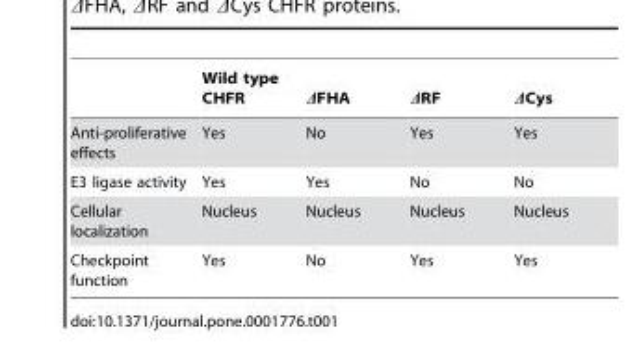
<table><thead><tr><td></td><td>Wild type CHFR</td><td>ΔFHA</td><td>ΔRF</td><td>ΔCys</td></tr></thead><tbody><tr><td>Anti-proliferative effects</td><td>Yes</td><td>No</td><td>Yes</td><td>Yes</td></tr><tr><td>E3 ligase activity</td><td>Yes</td><td>Yes</td><td>No</td><td>No</td></tr><tr><td>Cellular localization</td><td>Nucleus</td><td>Nucleus</td><td>Nucleus</td><td>Nucleus</td></tr><tr><td>Checkpoint function</td><td>Yes</td><td>No</td><td>Yes</td><td>Yes</td></tr></tbody></table>